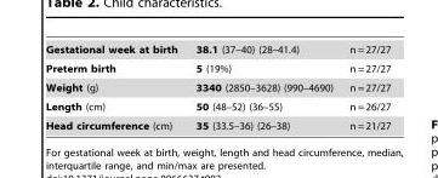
<table><tbody><tr><td>Gestational week at birth</td><td>38.1 (37–40) (28–41.4)</td><td>n = 27/27</td></tr><tr><td>Preterm birth</td><td>5 (19%)</td><td>n = 27/27</td></tr><tr><td>Weight (g)</td><td>3340 (2850–3628) (990–4690)</td><td>n = 27/27</td></tr><tr><td>Length (cm)</td><td>50 (48–52) (36–55)</td><td>n = 26/27</td></tr><tr><td>Head circumference (cm)</td><td>35 (33.5–36) (26–38)</td><td>n = 21/27</td></tr></tbody></table>